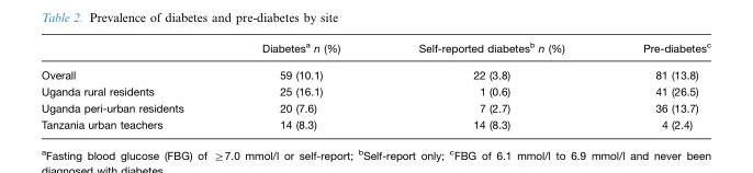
<table><thead><tr><td></td><td>Diabetes<sup>a</sup> n (%)</td><td>Self-reported diabetes<sup>b</sup> n (%)</td><td>Pre-diabetes<sup>c</sup></td></tr></thead><tbody><tr><td>Overall</td><td>59 (10.1)</td><td>22 (3.8)</td><td>81 (13.8)</td></tr><tr><td>Uganda rural residents</td><td>25 (16.1)</td><td>1 (0.6)</td><td>41 (26.5)</td></tr><tr><td>Uganda peri-urban residents</td><td>20 (7.6)</td><td>7 (2.7)</td><td>36 (13.7)</td></tr><tr><td>Tanzania urban teachers</td><td>14 (8.3)</td><td>14 (8.3)</td><td>4 (2.4)</td></tr></tbody></table>